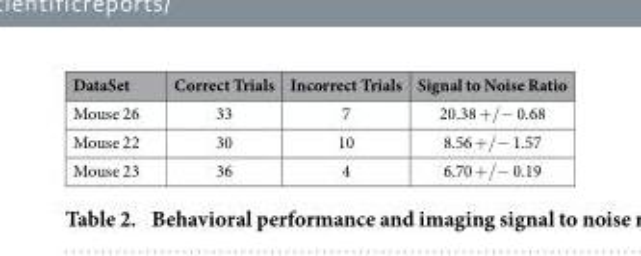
<table><thead><tr><td>DataSet</td><td>Correct Trials</td><td>Incorrect Trials</td><td>Signal to Noise Ratio</td></tr></thead><tbody><tr><td>Mouse 26</td><td>33</td><td>7</td><td>20.38 +/- 0.68</td></tr><tr><td>Mouse 22</td><td>30</td><td>10</td><td>8.56 +/- 1.57</td></tr><tr><td>Mouse 23</td><td>36</td><td>4</td><td>6.70 +/- 0.19</td></tr></tbody></table>